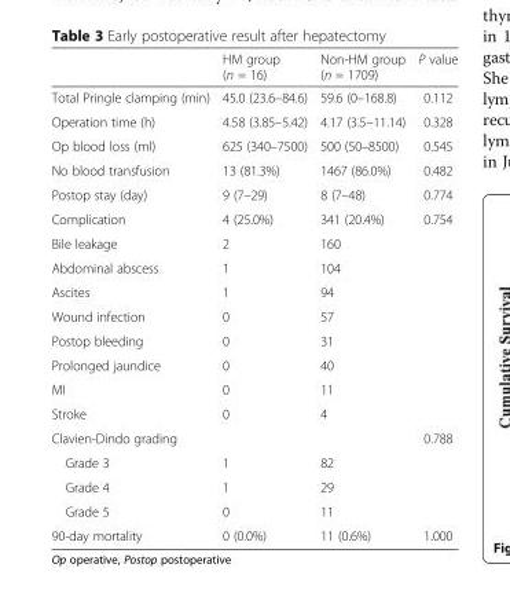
<table><thead><tr><td></td><td>HM group (n = 16)</td><td>Non-HM group (n = 1709)</td><td>P value</td></tr></thead><tbody><tr><td>Total Pringle clamping (min)</td><td>45.0 (23.6–84.6)</td><td>59.6 (0–168.8)</td><td>0.112</td></tr><tr><td>Operation time (h)</td><td>4.58 (3.85–5.42)</td><td>4.17 (3.5–11.14)</td><td>0.328</td></tr><tr><td>Op blood loss (ml)</td><td>625 (340–7500)</td><td>500 (50–8500)</td><td>0.545</td></tr><tr><td>No blood transfusion</td><td>13 (81.3%)</td><td>1467 (86.0%)</td><td>0.482</td></tr><tr><td>Postop stay (day)</td><td>9 (7–29)</td><td>8 (7–48)</td><td>0.774</td></tr><tr><td>Complication</td><td>4 (25.0%)</td><td>341 (20.4%)</td><td>0.754</td></tr><tr><td>Bile leakage</td><td>2</td><td>160</td><td></td></tr><tr><td>Abdominal abscess</td><td>1</td><td>104</td><td></td></tr><tr><td>Ascites</td><td>1</td><td>94</td><td></td></tr><tr><td>Wound infection</td><td>0</td><td>57</td><td></td></tr><tr><td>Postop bleeding</td><td>0</td><td>31</td><td></td></tr><tr><td>Prolonged jaundice</td><td>0</td><td>40</td><td></td></tr><tr><td>MI</td><td>0</td><td>11</td><td></td></tr><tr><td>Stroke</td><td>0</td><td>4</td><td></td></tr><tr><td>Clavien-Dindo grading</td><td></td><td></td><td>0.788</td></tr><tr><td>Grade 3</td><td>1</td><td>82</td><td></td></tr><tr><td>Grade 4</td><td>1</td><td>29</td><td></td></tr><tr><td>Grade 5</td><td>0</td><td>11</td><td></td></tr><tr><td>90-day mortality</td><td>0 (0.0%)</td><td>11 (0.6%)</td><td>1.000</td></tr></tbody></table>